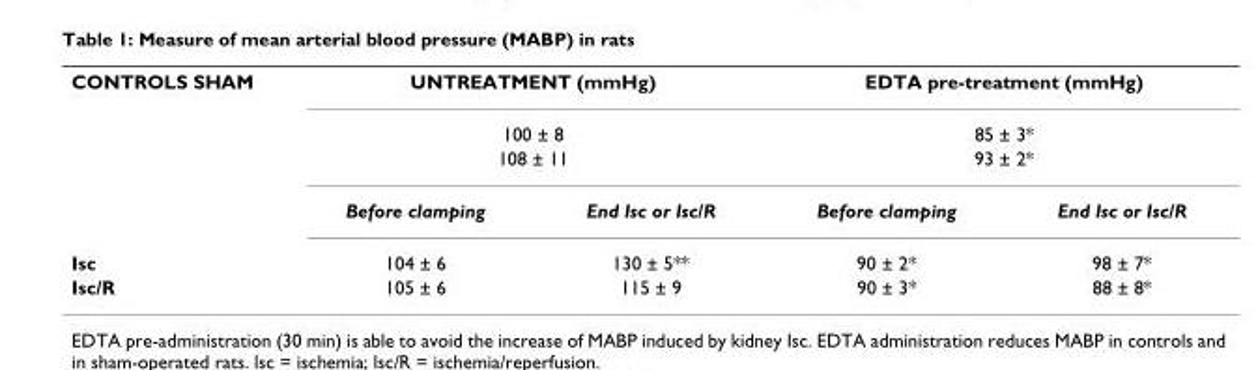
<table><tbody><tr><td rowspan="4">CONTROLS SHAM</td><td colspan="2">UNTREATMENT (mmHg)</td><td colspan="2">EDTA pre-treatment (mmHg)</td></tr><tr><td colspan="2">100 ± 8</td><td colspan="2">85 ± 3*</td></tr><tr><td colspan="2">108 ± 11</td><td colspan="2">93 ± 2*</td></tr><tr><td>Before clamping</td><td>End Isc or Isc/R</td><td>Before clamping</td><td>End Isc or Isc/R</td></tr><tr><td>Isc</td><td>104 ± 6</td><td>130 ± 5**</td><td>90 ± 2*</td><td>98 ± 7*</td></tr><tr><td>Isc/R</td><td>105 ± 6</td><td>115 ± 9</td><td>90 ± 3*</td><td>88 ± 8*</td></tr></tbody></table>